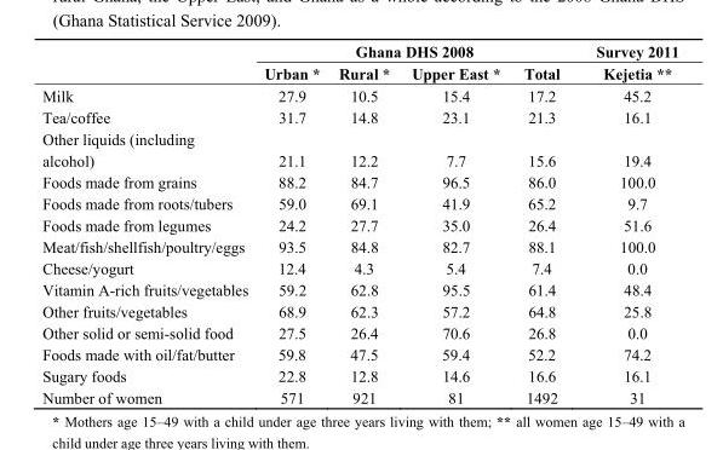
<table><thead><tr><td rowspan="2"></td><td colspan="4">Ghana DHS 2008</td><td rowspan="2">Survey 2011 Kejetia **</td></tr><tr><td>Urban *</td><td>Rural *</td><td>Upper East *</td><td>Total</td></tr></thead><tbody><tr><td>Milk</td><td>27.9</td><td>10.5</td><td>15.4</td><td>17.2</td><td>45.2</td></tr><tr><td>Tea/coffee</td><td>31.7</td><td>14.8</td><td>23.1</td><td>21.3</td><td>16.1</td></tr><tr><td>Other liquids (including alcohol)</td><td>21.1</td><td>12.2</td><td>7.7</td><td>15.6</td><td>19.4</td></tr><tr><td>Foods made from grains</td><td>88.2</td><td>84.7</td><td>96.5</td><td>86.0</td><td>100.0</td></tr><tr><td>Foods made from roots/tubers</td><td>59.0</td><td>69.1</td><td>41.9</td><td>65.2</td><td>9.7</td></tr><tr><td>Foods made from legumes</td><td>24.2</td><td>27.7</td><td>35.0</td><td>26.4</td><td>51.6</td></tr><tr><td>Meat/fish/shellfish/poultry/eggs</td><td>93.5</td><td>84.8</td><td>82.7</td><td>88.1</td><td>100.0</td></tr><tr><td>Cheese/yogurt</td><td>12.4</td><td>4.3</td><td>5.4</td><td>7.4</td><td>0.0</td></tr><tr><td>Vitamin A-rich fruits/vegetables</td><td>59.2</td><td>62.8</td><td>95.5</td><td>61.4</td><td>48.4</td></tr><tr><td>Other fruits/vegetables</td><td>68.9</td><td>62.3</td><td>57.2</td><td>64.8</td><td>25.8</td></tr><tr><td>Other solid or semi-solid food</td><td>27.5</td><td>26.4</td><td>70.6</td><td>26.8</td><td>0.0</td></tr><tr><td>Foods made with oil/fat/butter</td><td>59.8</td><td>47.5</td><td>59.4</td><td>52.2</td><td>74.2</td></tr><tr><td>Sugary foods</td><td>22.8</td><td>12.8</td><td>14.6</td><td>16.6</td><td>16.1</td></tr><tr><td>Number of women</td><td>571</td><td>921</td><td>81</td><td>1492</td><td>31</td></tr></tbody></table>